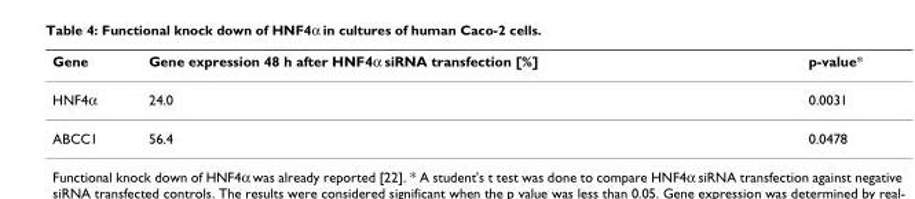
<table><thead><tr><td>Gene</td><td>Gene expression 48 h after HNF4α siRNA transfection [%]</td><td>p-value*</td></tr></thead><tbody><tr><td>HNF4α</td><td>24.0</td><td>0.0031</td></tr><tr><td>ABCC1</td><td>56.4</td><td>0.0478</td></tr></tbody></table>